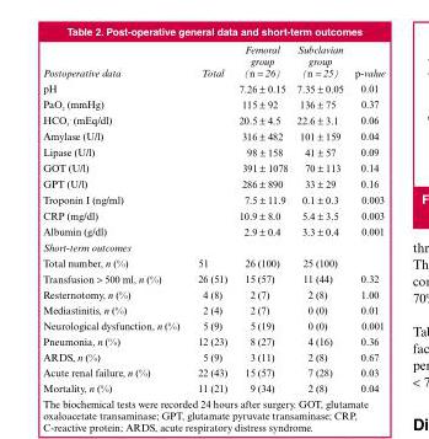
<table><thead><tr><td>Postoperative data</td><td>Total</td><td>Femoral group (n = 26)</td><td>Subclavian group (n = 25)</td><td>p-value</td></tr></thead><tbody><tr><td>pH</td><td></td><td>7.26 ± 0.15</td><td>7.35 ± 0.05</td><td>0.01</td></tr><tr><td>PaO<sub>2</sub> (mmHg)</td><td></td><td>115 ± 92</td><td>136 ± 75</td><td>0.37</td></tr><tr><td>HCO<sub>3</sub> - (mEq/dl)</td><td></td><td>20.5 ± 4.5</td><td>22.6 ± 3.1</td><td>0.06</td></tr><tr><td>Amylase (U/l)</td><td></td><td>316 ± 482</td><td>101 ± 159</td><td>0.04</td></tr><tr><td>Lipase (U/l)</td><td></td><td>98 ± 158</td><td>41 ± 57</td><td>0.09</td></tr><tr><td>GOT (U/l)</td><td></td><td>391 ± 1078</td><td>70 ± 113</td><td>0.14</td></tr><tr><td>GPT (U/l)</td><td></td><td>286 ± 890</td><td>33 ± 29</td><td>0.16</td></tr><tr><td>Troponin I (ng/ml)</td><td></td><td>7.5 ± 11.9</td><td>0.1 ± 0.3</td><td>0.003</td></tr><tr><td>CRP (mg/dl)</td><td></td><td>10.9 ± 8.0</td><td>5.4 ± 3.5</td><td>0.003</td></tr><tr><td>Albumin (g/dl)</td><td></td><td>2.9 ± 0.4</td><td>3.3 ± 0.4</td><td>0.001</td></tr><tr><td colspan="5">Short-term outcomes</td></tr><tr><td>Total number, n (%)</td><td>51</td><td>26 (100)</td><td>25 (100)</td><td></td></tr><tr><td>Transfusion &gt; 500 ml, n (%)</td><td>26 (51)</td><td>15 (57)</td><td>11 (44)</td><td>0.32</td></tr><tr><td>Resternotomy, n (%)</td><td>4 (8)</td><td>2 (7)</td><td>2 (8)</td><td>1.00</td></tr><tr><td>Mediastinitis, n (%)</td><td>2 (4)</td><td>2 (7)</td><td>0 (0)</td><td>0.01</td></tr><tr><td>Neurological dysfunction, n (%)</td><td>5 (9)</td><td>5 (19)</td><td>0 (0)</td><td>0.001</td></tr><tr><td>Pneumonia, n (%)</td><td>12 (23)</td><td>8 (27)</td><td>4 (16)</td><td>0.36</td></tr><tr><td>ARDS, n (%)</td><td>5 (9)</td><td>3 (11)</td><td>2 (8)</td><td>0.67</td></tr><tr><td>Acute renal failure, n (%)</td><td>22 (43)</td><td>15 (57)</td><td>7 (28)</td><td>0.03</td></tr><tr><td>Mortality, n (%)</td><td>11 (21)</td><td>9 (34)</td><td>2 (8)</td><td>0.04</td></tr></tbody></table>